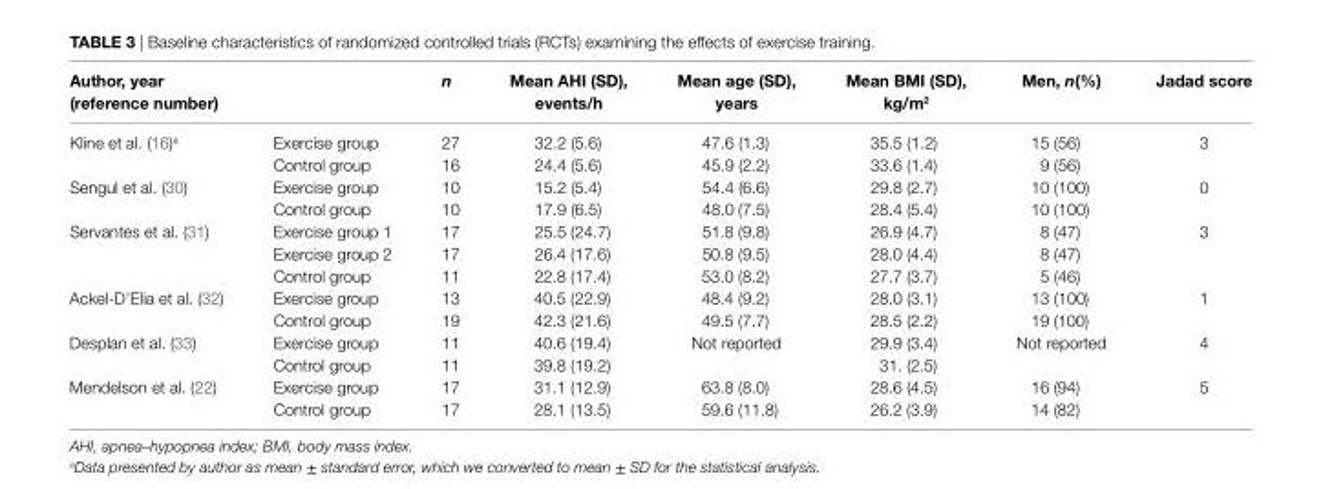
<table><thead><tr><td>author, year (reference number)</td><td></td><td>n</td><td>mean aHi (SD), events/h</td><td>mean age (SD), years</td><td>mean Bmi (SD), kg/m<sup>2</sup></td><td>men, n(%)</td><td>Jadad score</td></tr></thead><tbody><tr><td rowspan="2">Kline et al. (16)<sup>a</sup></td><td>Exercise group</td><td>27</td><td>32.2 (5.6)</td><td>47.6 (1.3)</td><td>35.5 (1.2)</td><td>15 (56)</td><td>3</td></tr><tr><td>Control group</td><td>16</td><td>24.4 (5.6)</td><td>45.9 (2.2)</td><td>33.6 (1.4)</td><td>9 (56)</td><td></td></tr><tr><td rowspan="2">Sengul et al. (30)</td><td>Exercise group</td><td>10</td><td>15.2 (5.4)</td><td>54.4 (6.6)</td><td>29.8 (2.7)</td><td>10 (100)</td><td>0</td></tr><tr><td>Control group</td><td>10</td><td>17.9 (6.5)</td><td>48.0 (7.5)</td><td>28.4 (5.4)</td><td>10 (100)</td><td></td></tr><tr><td rowspan="3">Servantes et al. (31)</td><td>Exercise group 1</td><td>17</td><td>25.5 (24.7)</td><td>51.8 (9.8)</td><td>26.9 (4.7)</td><td>8 (47)</td><td>3</td></tr><tr><td>Exercise group 2</td><td>17</td><td>26.4 (17.6)</td><td>50.8 (9.5)</td><td>28.0 (4.4)</td><td>8 (47)</td><td></td></tr><tr><td>Control group</td><td>11</td><td>22.8 (17.4)</td><td>53.0 (8.2)</td><td>27.7 (3.7)</td><td>5 (46)</td><td></td></tr><tr><td rowspan="2">Ackel-D’Elia et al. (32)</td><td>Exercise group</td><td>13</td><td>40.5 (22.9)</td><td>48.4 (9.2)</td><td>28.0 (3.1)</td><td>13 (100)</td><td>1</td></tr><tr><td>Control group</td><td>19</td><td>42.3 (21.6)</td><td>49.5 (7.7)</td><td>28.5 (2.2)</td><td>19 (100)</td><td></td></tr><tr><td rowspan="2">Desplan et al. (33)</td><td>Exercise group</td><td>11</td><td>40.6 (19.4)</td><td>Not reported</td><td>29.9 (3.4)</td><td>Not reported</td><td>4</td></tr><tr><td>Control group</td><td>11</td><td>39.8 (19.2)</td><td></td><td>31. (2.5)</td><td></td><td></td></tr><tr><td rowspan="2">Mendelson et al. (22)</td><td>Exercise group</td><td>17</td><td>31.1 (12.9)</td><td>63.8 (8.0)</td><td>28.6 (4.5)</td><td>16 (94)</td><td>5</td></tr><tr><td>Control group</td><td>17</td><td>28.1 (13.5)</td><td>59.6 (11.8)</td><td>26.2 (3.9)</td><td>14 (82)</td><td></td></tr></tbody></table>